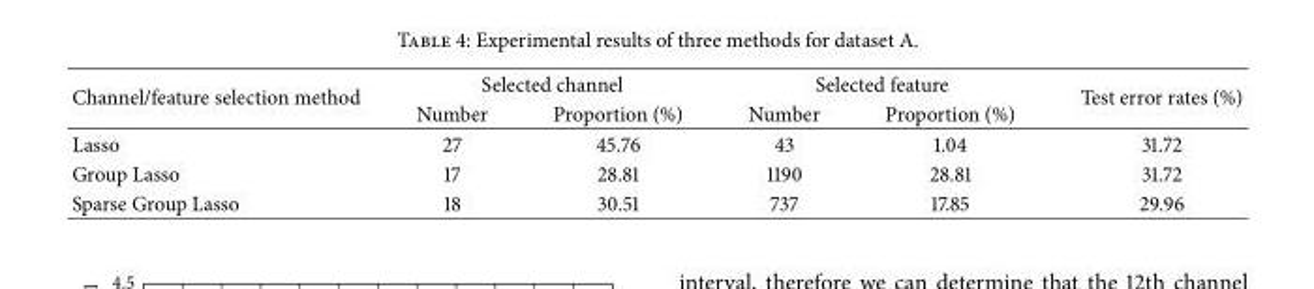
<table><thead><tr><td rowspan="2">Channel/feature selection method</td><td colspan="2">Selected channel</td><td colspan="2">Selected feature</td><td rowspan="2">Test error rates (%)</td></tr><tr><td>Number</td><td>Proportion (%)</td><td>Number</td><td>Proportion (%)</td></tr></thead><tbody><tr><td>Lasso</td><td>27</td><td>45.76</td><td>43</td><td>1.04</td><td>31.72</td></tr><tr><td>Group Lasso</td><td>17</td><td>28.81</td><td>1190</td><td>28.81</td><td>31.72</td></tr><tr><td>Sparse Group Lasso</td><td>18</td><td>30.51</td><td>737</td><td>17.85</td><td>29.96</td></tr></tbody></table>